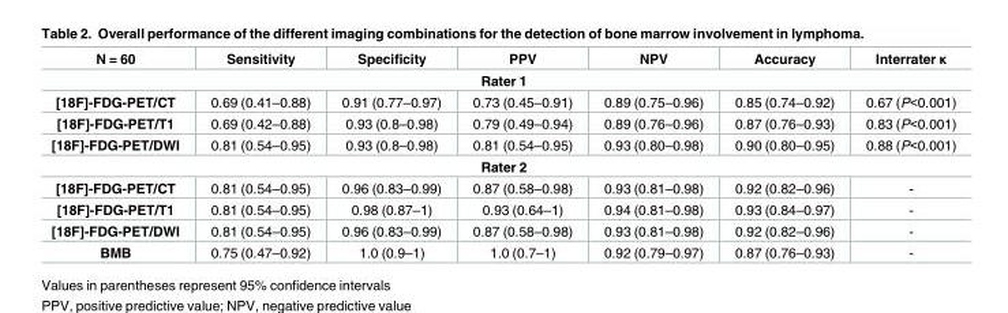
<table><thead><tr><td>N = 60</td><td>Sensitivity</td><td>Specificity</td><td>PPV</td><td>NPV</td><td>Accuracy</td><td>Interrater κ</td></tr></thead><tbody><tr><td colspan="7">Rater 1</td></tr><tr><td>[18F]-FDG-PET/CT</td><td>0.69 (0.41–0.88)</td><td>0.91 (0.77–0.97)</td><td>0.73 (0.45–0.91)</td><td>0.89 (0.75–0.96)</td><td>0.85 (0.74–0.92)</td><td>0.67 (P&lt;0.001)</td></tr><tr><td>[18F]-FDG-PET/T1</td><td>0.69 (0.42–0.88)</td><td>0.93 (0.8–0.98)</td><td>0.79 (0.49–0.94)</td><td>0.89 (0.76–0.96)</td><td>0.87 (0.76–0.93)</td><td>0.83 (P&lt;0.001)</td></tr><tr><td>[18F]-FDG-PET/DWI</td><td>0.81 (0.54–0.95)</td><td>0.93 (0.8–0.98)</td><td>0.81 (0.54–0.95)</td><td>0.93 (0.80–0.98)</td><td>0.90 (0.80–0.95)</td><td>0.88 (P&lt;0.001)</td></tr><tr><td colspan="7">Rater 2</td></tr><tr><td>[18F]-FDG-PET/CT</td><td>0.81 (0.54–0.95)</td><td>0.96 (0.83–0.99)</td><td>0.87 (0.58–0.98)</td><td>0.93 (0.81–0.98)</td><td>0.92 (0.82–0.96)</td><td>-</td></tr><tr><td>[18F]-FDG-PET/T1</td><td>0.81 (0.54–0.95)</td><td>0.98 (0.87–1)</td><td>0.93 (0.64–1)</td><td>0.94 (0.81–0.98)</td><td>0.93 (0.84–0.97)</td><td>-</td></tr><tr><td>[18F]-FDG-PET/DWI</td><td>0.81 (0.54–0.95)</td><td>0.96 (0.83–0.99)</td><td>0.87 (0.58–0.98)</td><td>0.93 (0.81–0.98)</td><td>0.92 (0.82–0.96)</td><td>-</td></tr><tr><td>BMB</td><td>0.75 (0.47–0.92)</td><td>1.0 (0.9–1)</td><td>1.0 (0.7–1)</td><td>0.92 (0.79–0.97)</td><td>0.87 (0.76–0.93)</td><td>-</td></tr></tbody></table>